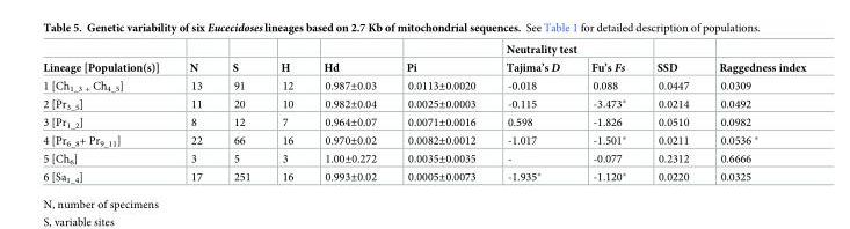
<table><thead><tr><td rowspan="2">Lineage [Population(s)]</td><td rowspan="2">N</td><td rowspan="2">S</td><td rowspan="2">H</td><td rowspan="2">Hd</td><td rowspan="2">Pi</td><td colspan="2">Neutrality test</td><td rowspan="2">SSD</td><td rowspan="2">Raggedness index</td></tr><tr><td>Tajima’s D</td><td>Fu’s Fs</td></tr></thead><tbody><tr><td>1 [Ch<sub>1_3 +</sub> Ch<sub>4_5</sub>]</td><td>13</td><td>91</td><td>12</td><td>0.987±0.03</td><td>0.0113±0.0020</td><td>-0.018</td><td>0.088</td><td>0.0447</td><td>0.0309</td></tr><tr><td>2 [Pr<sub>3_5</sub>]</td><td>11</td><td>20</td><td>10</td><td>0.982±0.04</td><td>0.0025±0.0003</td><td>-0.115</td><td>-3.473*</td><td>0.0214</td><td>0.0492</td></tr><tr><td>3 [Pr<sub>1_2</sub>]</td><td>8</td><td>12</td><td>7</td><td>0.964±0.07</td><td>0.0071±0.0016</td><td>0.598</td><td>-1.826</td><td>0.0510</td><td>0.0982</td></tr><tr><td>4 [Pr<sub>6_8</sub>+ Pr<sub>9_11</sub>]</td><td>22</td><td>66</td><td>16</td><td>0.970±0.02</td><td>0.0082±0.0012</td><td>-1.017</td><td>-1.501*</td><td>0.0211</td><td>0.0536 *</td></tr><tr><td>5 [Ch<sub>6</sub>]</td><td>3</td><td>5</td><td>3</td><td>1.00±0.272</td><td>0.0035±0.0035</td><td>-</td><td>-0.077</td><td>0.2312</td><td>0.6666</td></tr><tr><td>6 [Sa<sub>1_4</sub>]</td><td>17</td><td>251</td><td>16</td><td>0.993±0.02</td><td>0.0005±0.0073</td><td>-1.935*</td><td>-1.120*</td><td>0.0220</td><td>0.0325</td></tr></tbody></table>